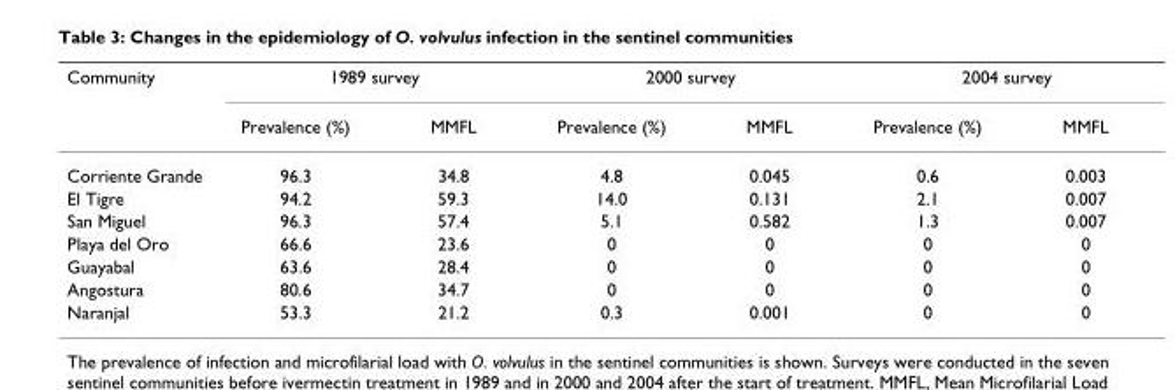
<table><thead><tr><td rowspan="2">Community</td><td colspan="2">1989 survey</td><td colspan="2">2000 survey</td><td colspan="2">2004 survey</td></tr><tr><td>Prevalence (%)</td><td>MMFL</td><td>Prevalence (%)</td><td>MMFL</td><td>Prevalence (%)</td><td>MMFL</td></tr></thead><tbody><tr><td>Corriente Grande</td><td>96.3</td><td>34.8</td><td>4.8</td><td>0.045</td><td>0.6</td><td>0.003</td></tr><tr><td>El Tigre</td><td>94.2</td><td>59.3</td><td>14.0</td><td>0.131</td><td>2.1</td><td>0.007</td></tr><tr><td>San Miguel</td><td>96.3</td><td>57.4</td><td>5.1</td><td>0.582</td><td>1.3</td><td>0.007</td></tr><tr><td>Playa del Oro</td><td>66.6</td><td>23.6</td><td>0</td><td>0</td><td>0</td><td>0</td></tr><tr><td>Guayabal</td><td>63.6</td><td>28.4</td><td>0</td><td>0</td><td>0</td><td>0</td></tr><tr><td>Angostura</td><td>80.6</td><td>34.7</td><td>0</td><td>0</td><td>0</td><td>0</td></tr><tr><td>Naranjal</td><td>53.3</td><td>21.2</td><td>0.3</td><td>0.001</td><td>0</td><td>0</td></tr></tbody></table>